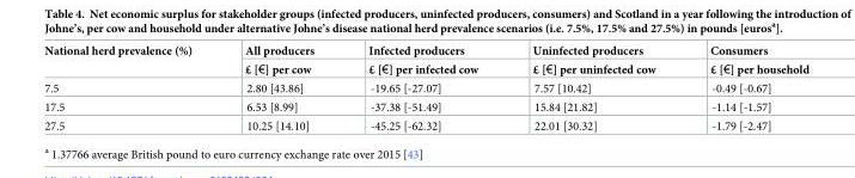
<table><thead><tr><td rowspan="2">National herd prevalence (%)</td><td rowspan="2">All producers £ [€] per cow</td><td rowspan="2">Infected producers £ [€] per infected cow</td><td rowspan="2">Uninfected producers £ [€] per uninfected cow</td><td rowspan="2">Consumers £ [€] per household</td></tr><tr></tr></thead><tbody><tr><td>7.5</td><td>2.80 [43.86]</td><td>-19.65 [-27.07]</td><td>7.57 [10.42]</td><td>-0.49 [-0.67]</td></tr><tr><td>17.5</td><td>6.53 [8.99]</td><td>-37.38 [-51.49]</td><td>15.84 [21.82]</td><td>-1.14 [-1.57]</td></tr><tr><td>27.5</td><td>10.25 [14.10]</td><td>-45.25 [-62.32]</td><td>22.01 [30.32]</td><td>-1.79 [-2.47]</td></tr></tbody></table>